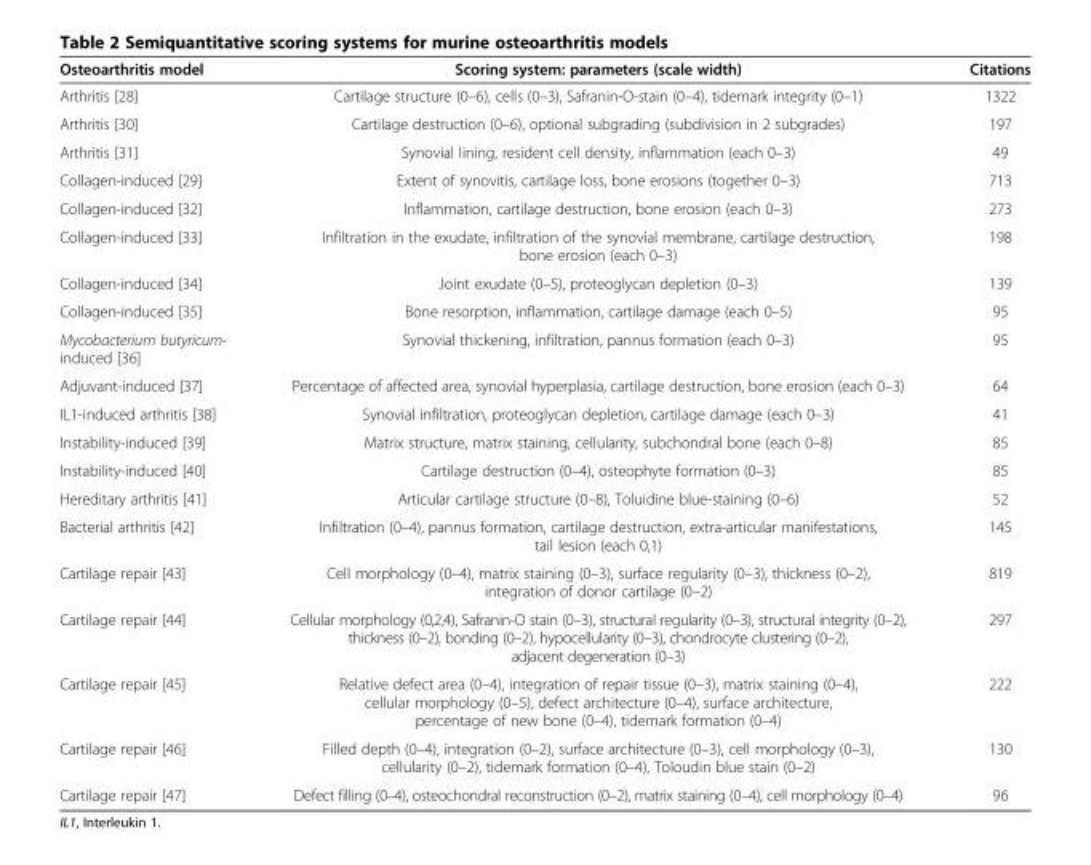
<table><thead><tr><td>Osteoarthritis model</td><td>Scoring system: parameters (scale width)</td><td>Citations</td></tr></thead><tbody><tr><td>Arthritis [28]</td><td>Cartilage structure (0–6), cells (0–3), Safranin-O-stain (0–4), tidemark integrity (0–1)</td><td>1322</td></tr><tr><td>Arthritis [30]</td><td>Cartilage destruction (0–6), optional subgrading (subdivision in 2 subgrades)</td><td>197</td></tr><tr><td>Arthritis [31]</td><td>Synovial lining, resident cell density, inflammation (each 0–3)</td><td>49</td></tr><tr><td>Collagen-induced [29]</td><td>Extent of synovitis, cartilage loss, bone erosions (together 0–3)</td><td>713</td></tr><tr><td>Collagen-induced [32]</td><td>Inflammation, cartilage destruction, bone erosion (each 0–3)</td><td>273</td></tr><tr><td>Collagen-induced [33]</td><td>Infiltration in the exudate, infiltration of the synovial membrane, cartilage destruction, bone erosion (each 0–3)</td><td>198</td></tr><tr><td>Collagen-induced [34]</td><td>Joint exudate (0–5), proteoglycan depletion (0–3)</td><td>139</td></tr><tr><td>Collagen-induced [35]</td><td>Bone resorption, inflammation, cartilage damage (each 0–5)</td><td>95</td></tr><tr><td>Mycobacterium butyricum- induced [36]</td><td>Synovial thickening, infiltration, pannus formation (each 0–3)</td><td>95</td></tr><tr><td>Adjuvant-induced [37]</td><td>Percentage of affected area, synovial hyperplasia, cartilage destruction, bone erosion (each 0–3)</td><td>64</td></tr><tr><td>IL1-induced arthritis [38]</td><td>Synovial infiltration, proteoglycan depletion, cartilage damage (each 0–3)</td><td>41</td></tr><tr><td>Instability-induced [39]</td><td>Matrix structure, matrix staining, cellularity, subchondral bone (each 0–8)</td><td>85</td></tr><tr><td>Instability-induced [40]</td><td>Cartilage destruction (0–4), osteophyte formation (0–3)</td><td>85</td></tr><tr><td>Hereditary arthritis [41]</td><td>Articular cartilage structure (0–8), Toluidine blue-staining (0–6)</td><td>52</td></tr><tr><td>Bacterial arthritis [42]</td><td>Infiltration (0–4), pannus formation, cartilage destruction, extra-articular manifestations, tail lesion (each 0,1)</td><td>145</td></tr><tr><td>Cartilage repair [43]</td><td>Cell morphology (0–4), matrix staining (0–3), surface regularity (0–3), thickness (0–2), integration of donor cartilage (0–2)</td><td>819</td></tr><tr><td>Cartilage repair [44]</td><td>Cellular morphology (0,2,4), Safranin-O stain (0–3), structural regularity (0–3), structural integrity (0–2), thickness (0–2), bonding (0–2), hypocellularity (0–3), chondrocyte clustering (0–2), adjacent degeneration (0–3)</td><td>297</td></tr><tr><td>Cartilage repair [45]</td><td>Relative defect area (0–4), integration of repair tissue (0–3), matrix staining (0–4), cellular morphology (0–5), defect architecture (0–4), surface architecture, percentage of new bone (0–4), tidemark formation (0–4)</td><td>222</td></tr><tr><td>Cartilage repair [46]</td><td>Filled depth (0–4), integration (0–2), surface architecture (0–3), cell morphology (0–3), cellularity (0–2), tidemark formation (0–4), Toloudin blue stain (0–2)</td><td>130</td></tr><tr><td>Cartilage repair [47]</td><td>Defect filling (0–4), osteochondral reconstruction (0–2), matrix staining (0–4), cell morphology (0–4)</td><td>96</td></tr></tbody></table>